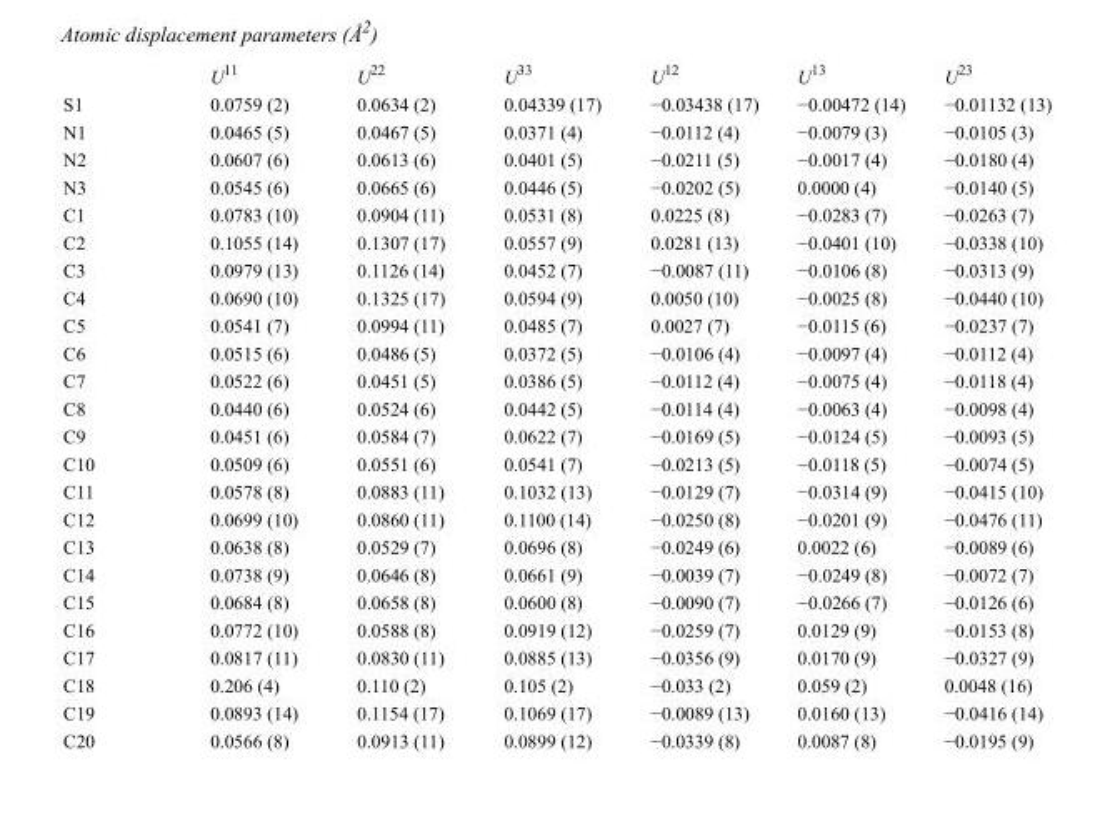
<table><thead><tr><td></td><td>U<sup>11</sup></td><td>U<sup>22</sup></td><td>U<sup>33</sup></td><td>U<sup>12</sup></td><td>U<sup>13</sup></td><td>U<sup>23</sup></td></tr></thead><tbody><tr><td>S1</td><td>0.0759 (2)</td><td>0.0634 (2)</td><td>0.04339 (17)</td><td>−0.03438 (17)</td><td>−0.00472 (14)</td><td>−0.01132 (13)</td></tr><tr><td>N1</td><td>0.0465 (5)</td><td>0.0467 (5)</td><td>0.0371 (4)</td><td>−0.0112 (4)</td><td>−0.0079 (3)</td><td>−0.0105 (3)</td></tr><tr><td>N2</td><td>0.0607 (6)</td><td>0.0613 (6)</td><td>0.0401 (5)</td><td>−0.0211 (5)</td><td>−0.0017 (4)</td><td>−0.0180 (4)</td></tr><tr><td>N3</td><td>0.0545 (6)</td><td>0.0665 (6)</td><td>0.0446 (5)</td><td>−0.0202 (5)</td><td>0.0000 (4)</td><td>−0.0140 (5)</td></tr><tr><td>C1</td><td>0.0783 (10)</td><td>0.0904 (11)</td><td>0.0531 (8)</td><td>0.0225 (8)</td><td>−0.0283 (7)</td><td>−0.0263 (7)</td></tr><tr><td>C2</td><td>0.1055 (14)</td><td>0.1307 (17)</td><td>0.0557 (9)</td><td>0.0281 (13)</td><td>−0.0401 (10)</td><td>−0.0338 (10)</td></tr><tr><td>C3</td><td>0.0979 (13)</td><td>0.1126 (14)</td><td>0.0452 (7)</td><td>−0.0087 (11)</td><td>−0.0106 (8)</td><td>−0.0313 (9)</td></tr><tr><td>C4</td><td>0.0690 (10)</td><td>0.1325 (17)</td><td>0.0594 (9)</td><td>0.0050 (10)</td><td>−0.0025 (8)</td><td>−0.0440 (10)</td></tr><tr><td>C5</td><td>0.0541 (7)</td><td>0.0994 (11)</td><td>0.0485 (7)</td><td>0.0027 (7)</td><td>−0.0115 (6)</td><td>−0.0237 (7)</td></tr><tr><td>C6</td><td>0.0515 (6)</td><td>0.0486 (5)</td><td>0.0372 (5)</td><td>−0.0106 (4)</td><td>−0.0097 (4)</td><td>−0.0112 (4)</td></tr><tr><td>C7</td><td>0.0522 (6)</td><td>0.0451 (5)</td><td>0.0386 (5)</td><td>−0.0112 (4)</td><td>−0.0075 (4)</td><td>−0.0118 (4)</td></tr><tr><td>C8</td><td>0.0440 (6)</td><td>0.0524 (6)</td><td>0.0442 (5)</td><td>−0.0114 (4)</td><td>−0.0063 (4)</td><td>−0.0098 (4)</td></tr><tr><td>C9</td><td>0.0451 (6)</td><td>0.0584 (7)</td><td>0.0622 (7)</td><td>−0.0169 (5)</td><td>−0.0124 (5)</td><td>−0.0093 (5)</td></tr><tr><td>C10</td><td>0.0509 (6)</td><td>0.0551 (6)</td><td>0.0541 (7)</td><td>−0.0213 (5)</td><td>−0.0118 (5)</td><td>−0.0074 (5)</td></tr><tr><td>C11</td><td>0.0578 (8)</td><td>0.0883 (11)</td><td>0.1032 (13)</td><td>−0.0129 (7)</td><td>−0.0314 (9)</td><td>−0.0415 (10)</td></tr><tr><td>C12</td><td>0.0699 (10)</td><td>0.0860 (11)</td><td>0.1100 (14)</td><td>−0.0250 (8)</td><td>−0.0201 (9)</td><td>−0.0476 (11)</td></tr><tr><td>C13</td><td>0.0638 (8)</td><td>0.0529 (7)</td><td>0.0696 (8)</td><td>−0.0249 (6)</td><td>0.0022 (6)</td><td>−0.0089 (6)</td></tr><tr><td>C14</td><td>0.0738 (9)</td><td>0.0646 (8)</td><td>0.0661 (9)</td><td>−0.0039 (7)</td><td>−0.0249 (8)</td><td>−0.0072 (7)</td></tr><tr><td>C15</td><td>0.0684 (8)</td><td>0.0658 (8)</td><td>0.0600 (8)</td><td>−0.0090 (7)</td><td>−0.0266 (7)</td><td>−0.0126 (6)</td></tr><tr><td>C16</td><td>0.0772 (10)</td><td>0.0588 (8)</td><td>0.0919 (12)</td><td>−0.0259 (7)</td><td>0.0129 (9)</td><td>−0.0153 (8)</td></tr><tr><td>C17</td><td>0.0817 (11)</td><td>0.0830 (11)</td><td>0.0885 (13)</td><td>−0.0356 (9)</td><td>0.0170 (9)</td><td>−0.0327 (9)</td></tr><tr><td>C18</td><td>0.206 (4)</td><td>0.110 (2)</td><td>0.105 (2)</td><td>−0.033 (2)</td><td>0.059 (2)</td><td>0.0048 (16)</td></tr><tr><td>C19</td><td>0.0893 (14)</td><td>0.1154 (17)</td><td>0.1069 (17)</td><td>−0.0089 (13)</td><td>0.0160 (13)</td><td>−0.0416 (14)</td></tr><tr><td>C20</td><td>0.0566 (8)</td><td>0.0913 (11)</td><td>0.0899 (12)</td><td>−0.0339 (8)</td><td>0.0087 (8)</td><td>−0.0195 (9)</td></tr></tbody></table>